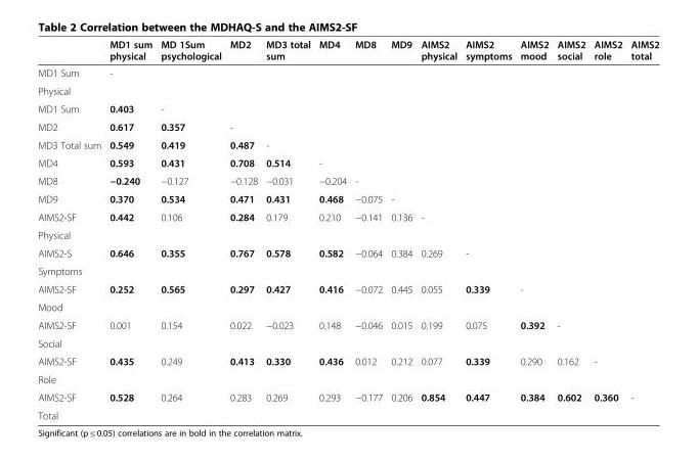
<table><thead><tr><td></td><td>MD1 sum physical</td><td>MD 1Sum psychological</td><td>MD2</td><td>MD3 total sum</td><td>MD4</td><td>MD8</td><td>MD9</td><td>AIMS2 physical</td><td>AIMS2 symptoms</td><td>AIMS2 mood</td><td>AIMS2 social</td><td>AIMS2 role</td><td>AIMS2 total</td></tr></thead><tbody><tr><td>MD1 Sum</td><td>-</td><td></td><td></td><td></td><td></td><td></td><td></td><td></td><td></td><td></td><td></td><td></td><td></td></tr><tr><td colspan="14">Physical</td></tr><tr><td>MD1 Sum</td><td>0.403</td><td>-</td><td></td><td></td><td></td><td></td><td></td><td></td><td></td><td></td><td></td><td></td><td></td></tr><tr><td>MD2</td><td>0.617</td><td>0.357</td><td>-</td><td></td><td></td><td></td><td></td><td></td><td></td><td></td><td></td><td></td><td></td></tr><tr><td>MD3 Total sum</td><td>0.549</td><td>0.419</td><td>0.487</td><td>-</td><td></td><td></td><td></td><td></td><td></td><td></td><td></td><td></td><td></td></tr><tr><td>MD4</td><td>0.593</td><td>0.431</td><td>0.708</td><td>0.514</td><td>-</td><td></td><td></td><td></td><td></td><td></td><td></td><td></td><td></td></tr><tr><td>MD8</td><td>−0.240</td><td>−0.127</td><td>−0.128</td><td>−0.031</td><td>−0.204</td><td>-</td><td></td><td></td><td></td><td></td><td></td><td></td><td></td></tr><tr><td>MD9</td><td>0.370</td><td>0.534</td><td>0.471</td><td>0.431</td><td>0.468</td><td>−0.075</td><td>-</td><td></td><td></td><td></td><td></td><td></td><td></td></tr><tr><td>AIMS2-SF</td><td>0.442</td><td>0.106</td><td>0.284</td><td>0.179</td><td>0.210</td><td>−0.141</td><td>0.136</td><td>-</td><td></td><td></td><td></td><td></td><td></td></tr><tr><td colspan="14">Physical</td></tr><tr><td>AIMS2-S</td><td>0.646</td><td>0.355</td><td>0.767</td><td>0.578</td><td>0.582</td><td>−0.064</td><td>0.384</td><td>0.269</td><td>-</td><td></td><td></td><td></td><td></td></tr><tr><td colspan="14">Symptoms</td></tr><tr><td>AIMS2-SF</td><td>0.252</td><td>0.565</td><td>0.297</td><td>0.427</td><td>0.416</td><td>−0.072</td><td>0.445</td><td>0.055</td><td>0.339</td><td>-</td><td></td><td></td><td></td></tr><tr><td colspan="14">Mood</td></tr><tr><td>AIMS2-SF</td><td>0.001</td><td>0.154</td><td>0.022</td><td>−0.023</td><td>0.148</td><td>−0.046</td><td>0.015</td><td>0.199</td><td>0.075</td><td>0.392</td><td>-</td><td></td><td></td></tr><tr><td colspan="14">Social</td></tr><tr><td>AIMS2-SF</td><td>0.435</td><td>0.249</td><td>0.413</td><td>0.330</td><td>0.436</td><td>0.012</td><td>0.212</td><td>0.077</td><td>0.339</td><td>0.290</td><td>0.162</td><td>-</td><td></td></tr><tr><td colspan="14">Role</td></tr><tr><td>AIMS2-SF</td><td>0.528</td><td>0.264</td><td>0.283</td><td>0.269</td><td>0.293</td><td>−0.177</td><td>0.206</td><td>0.854</td><td>0.447</td><td>0.384</td><td>0.602</td><td>0.360</td><td>-</td></tr><tr><td>Total</td><td></td><td></td><td></td><td></td><td></td><td></td><td></td><td></td><td></td><td></td><td></td><td></td><td></td></tr></tbody></table>